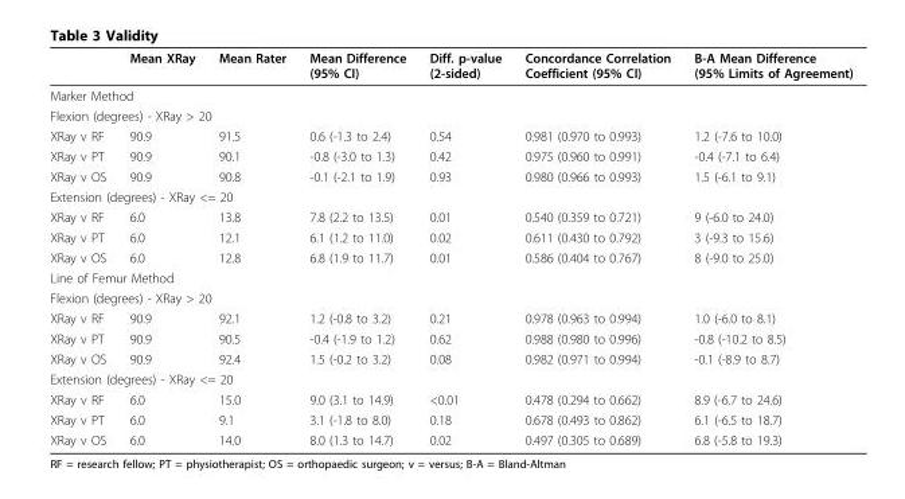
<table><thead><tr><td></td><td>Mean XRay</td><td>Mean Rater</td><td>Mean Difference (95% CI)</td><td>Diff. p-value (2-sided)</td><td>Concordance Correlation Coefficient (95% CI)</td><td>B-A Mean Difference (95% Limits of Agreement)</td></tr></thead><tbody><tr><td colspan="7">Marker Method</td></tr><tr><td colspan="7">Flexion (degrees) - XRay &gt; 20</td></tr><tr><td>XRay v RF</td><td>90.9</td><td>91.5</td><td>0.6 (-1.3 to 2.4)</td><td>0.54</td><td>0.981 (0.970 to 0.993)</td><td>1.2 (-7.6 to 10.0)</td></tr><tr><td>XRay v PT</td><td>90.9</td><td>90.1</td><td>-0.8 (-3.0 to 1.3)</td><td>0.42</td><td>0.975 (0.960 to 0.991)</td><td>-0.4 (-7.1 to 6.4)</td></tr><tr><td>XRay v OS</td><td>90.9</td><td>90.8</td><td>-0.1 (-2.1 to 1.9)</td><td>0.93</td><td>0.980 (0.966 to 0.993)</td><td>1.5 (-6.1 to 9.1)</td></tr><tr><td colspan="7">Extension (degrees) - XRay &lt;= 20</td></tr><tr><td>XRay v RF</td><td>6.0</td><td>13.8</td><td>7.8 (2.2 to 13.5)</td><td>0.01</td><td>0.540 (0.359 to 0.721)</td><td>9 (-6.0 to 24.0)</td></tr><tr><td>XRay v PT</td><td>6.0</td><td>12.1</td><td>6.1 (1.2 to 11.0)</td><td>0.02</td><td>0.611 (0.430 to 0.792)</td><td>3 (-9.3 to 15.6)</td></tr><tr><td>XRay v OS</td><td>6.0</td><td>12.8</td><td>6.8 (1.9 to 11.7)</td><td>0.01</td><td>0.586 (0.404 to 0.767)</td><td>8 (-9.0 to 25.0)</td></tr><tr><td colspan="7">Line of Femur Method</td></tr><tr><td colspan="7">Flexion (degrees) - XRay &gt; 20</td></tr><tr><td>XRay v RF</td><td>90.9</td><td>92.1</td><td>1.2 (-0.8 to 3.2)</td><td>0.21</td><td>0.978 (0.963 to 0.994)</td><td>1.0 (-6.0 to 8.1)</td></tr><tr><td>XRay v PT</td><td>90.9</td><td>90.5</td><td>-0.4 (-1.9 to 1.2)</td><td>0.62</td><td>0.988 (0.980 to 0.996)</td><td>-0.8 (-10.2 to 8.5)</td></tr><tr><td>XRay v OS</td><td>90.9</td><td>92.4</td><td>1.5 (-0.2 to 3.2)</td><td>0.08</td><td>0.982 (0.971 to 0.994)</td><td>-0.1 (-8.9 to 8.7)</td></tr><tr><td colspan="7">Extension (degrees) - XRay &lt;= 20</td></tr><tr><td>XRay v RF</td><td>6.0</td><td>15.0</td><td>9.0 (3.1 to 14.9)</td><td>&lt;0.01</td><td>0.478 (0.294 to 0.662)</td><td>8.9 (-6.7 to 24.6)</td></tr><tr><td>XRay v PT</td><td>6.0</td><td>9.1</td><td>3.1 (-1.8 to 8.0)</td><td>0.18</td><td>0.678 (0.493 to 0.862)</td><td>6.1 (-6.5 to 18.7)</td></tr><tr><td>XRay v OS</td><td>6.0</td><td>14.0</td><td>8.0 (1.3 to 14.7)</td><td>0.02</td><td>0.497 (0.305 to 0.689)</td><td>6.8 (-5.8 to 19.3)</td></tr></tbody></table>